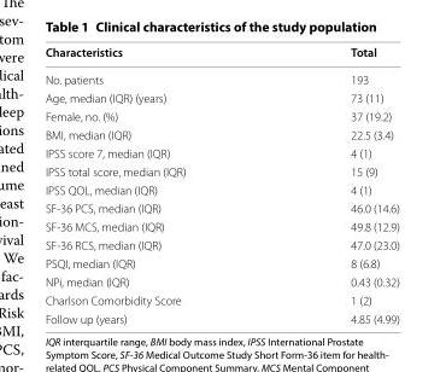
<table><thead><tr><td>Characteristics</td><td>Total</td></tr></thead><tbody><tr><td>No. patients</td><td>193</td></tr><tr><td>Age, median (IQR) (years)</td><td>73 (11)</td></tr><tr><td>Female, no. (%)</td><td>37 (19.2)</td></tr><tr><td>BMI, median (IQR)</td><td>22.5 (3.4)</td></tr><tr><td>IPSS score 7, median (IQR)</td><td>4 (1)</td></tr><tr><td>IPSS total score, median (IQR)</td><td>15 (9)</td></tr><tr><td>IPSS QOL, median (IQR)</td><td>4 (1)</td></tr><tr><td>SF-36 PCS, median (IQR)</td><td>46.0 (14.6)</td></tr><tr><td>SF-36 MCS, median (IQR)</td><td>49.8 (12.9)</td></tr><tr><td>SF-36 RCS, median (IQR)</td><td>47.0 (23.0)</td></tr><tr><td>PSQI, median (IQR)</td><td>8 (6.8)</td></tr><tr><td>NPi, median (IQR)</td><td>0.43 (0.32)</td></tr><tr><td>Charlson Comorbidity Score</td><td>1 (2)</td></tr><tr><td>Follow up (years)</td><td>4.85 (4.99)</td></tr></tbody></table>